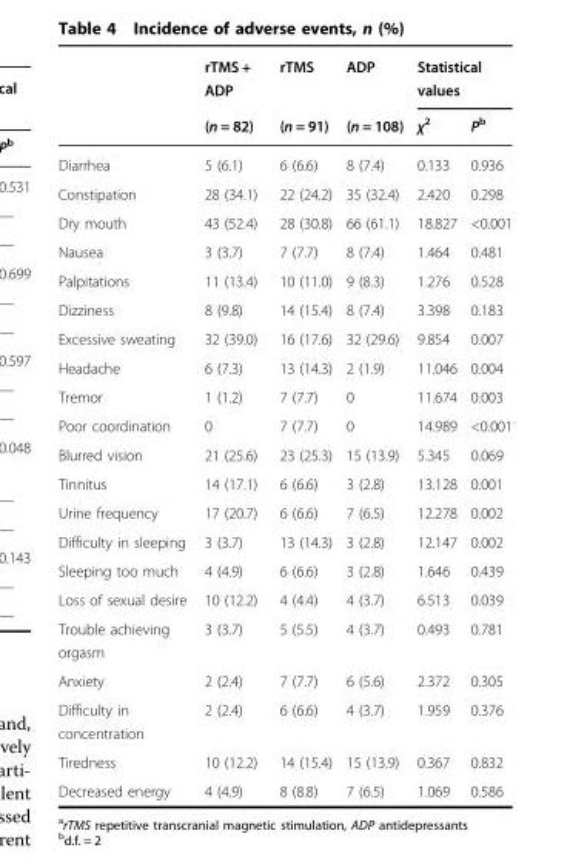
<table><thead><tr><td rowspan="2"></td><td rowspan="2">rTMS + ADP (n = 82)</td><td rowspan="2">rTMS (n = 91)</td><td rowspan="2">ADP (n = 108)</td><td colspan="2">Statistical values</td></tr><tr><td>χ<sup>2</sup></td><td>P<sup>b</sup></td></tr></thead><tbody><tr><td>Diarrhea</td><td>5 (6.1)</td><td>6 (6.6)</td><td>8 (7.4)</td><td>0.133</td><td>0.936</td></tr><tr><td>Constipation</td><td>28 (34.1)</td><td>22 (24.2)</td><td>35 (32.4)</td><td>2.420</td><td>0.298</td></tr><tr><td>Dry mouth</td><td>43 (52.4)</td><td>28 (30.8)</td><td>66 (61.1)</td><td>18.827</td><td>&lt;0.001</td></tr><tr><td>Nausea</td><td>3 (3.7)</td><td>7 (7.7)</td><td>8 (7.4)</td><td>1.464</td><td>0.481</td></tr><tr><td>Palpitations</td><td>11 (13.4)</td><td>10 (11.0)</td><td>9 (8.3)</td><td>1.276</td><td>0.528</td></tr><tr><td>Dizziness</td><td>8 (9.8)</td><td>14 (15.4)</td><td>8 (7.4)</td><td>3.398</td><td>0.183</td></tr><tr><td>Excessive sweating</td><td>32 (39.0)</td><td>16 (17.6)</td><td>32 (29.6)</td><td>9.854</td><td>0.007</td></tr><tr><td>Headache</td><td>6 (7.3)</td><td>13 (14.3)</td><td>2 (1.9)</td><td>11.046</td><td>0.004</td></tr><tr><td>Tremor</td><td>1 (1.2)</td><td>7 (7.7)</td><td>0</td><td>11.674</td><td>0.003</td></tr><tr><td>Poor coordination</td><td>0</td><td>7 (7.7)</td><td>0</td><td>14.989</td><td>&lt;0.001</td></tr><tr><td>Blurred vision</td><td>21 (25.6)</td><td>23 (25.3)</td><td>15 (13.9)</td><td>5.345</td><td>0.069</td></tr><tr><td>Tinnitus</td><td>14 (17.1)</td><td>6 (6.6)</td><td>3 (2.8)</td><td>13.128</td><td>0.001</td></tr><tr><td>Urine frequency</td><td>17 (20.7)</td><td>6 (6.6)</td><td>7 (6.5)</td><td>12.278</td><td>0.002</td></tr><tr><td>Difficulty in sleeping</td><td>3 (3.7)</td><td>13 (14.3)</td><td>3 (2.8)</td><td>12.147</td><td>0.002</td></tr><tr><td>Sleeping too much</td><td>4 (4.9)</td><td>6 (6.6)</td><td>3 (2.8)</td><td>1.646</td><td>0.439</td></tr><tr><td>Loss of sexual desire</td><td>10 (12.2)</td><td>4 (4.4)</td><td>4 (3.7)</td><td>6.513</td><td>0.039</td></tr><tr><td>Trouble achieving orgasm</td><td>3 (3.7)</td><td>5 (5.5)</td><td>4 (3.7)</td><td>0.493</td><td>0.781</td></tr><tr><td>Anxiety</td><td>2 (2.4)</td><td>7 (7.7)</td><td>6 (5.6)</td><td>2.372</td><td>0.305</td></tr><tr><td>Difficulty in concentration</td><td>2 (2.4)</td><td>6 (6.6)</td><td>4 (3.7)</td><td>1.959</td><td>0.376</td></tr><tr><td>Tiredness</td><td>10 (12.2)</td><td>14 (15.4)</td><td>15 (13.9)</td><td>0.367</td><td>0.832</td></tr><tr><td>Decreased energy</td><td>4 (4.9)</td><td>8 (8.8)</td><td>7 (6.5)</td><td>1.069</td><td>0.586</td></tr></tbody></table>